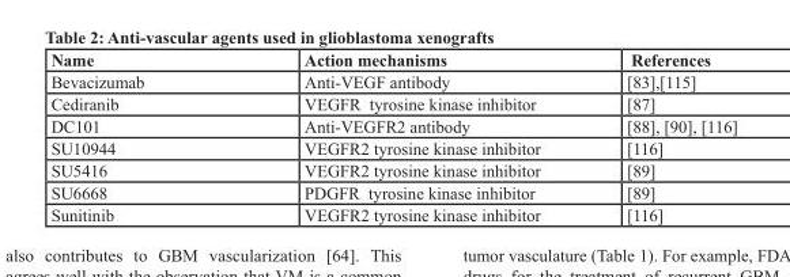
<table><thead><tr><td>Name</td><td>Action mechanisms</td><td>References</td></tr></thead><tbody><tr><td>Bevacizumab</td><td>Anti-VEGF antibody</td><td>[83],[115]</td></tr><tr><td>Cediranib</td><td>VEGFR tyrosine kinase inhibitor</td><td>[87]</td></tr><tr><td>DC101</td><td>Anti-VEGFR2 antibody</td><td>[88], [90], [116]</td></tr><tr><td>SU10944</td><td>VEGFR2 tyrosine kinase inhibitor</td><td>[116]</td></tr><tr><td>SU5416</td><td>VEGFR2 tyrosine kinase inhibitor</td><td>[89]</td></tr><tr><td>SU6668</td><td>PDGFR tyrosine kinase inhibitor</td><td>[89]</td></tr><tr><td>Sunitinib</td><td>VEGFR2 tyrosine kinase inhibitor</td><td>[116]</td></tr></tbody></table>